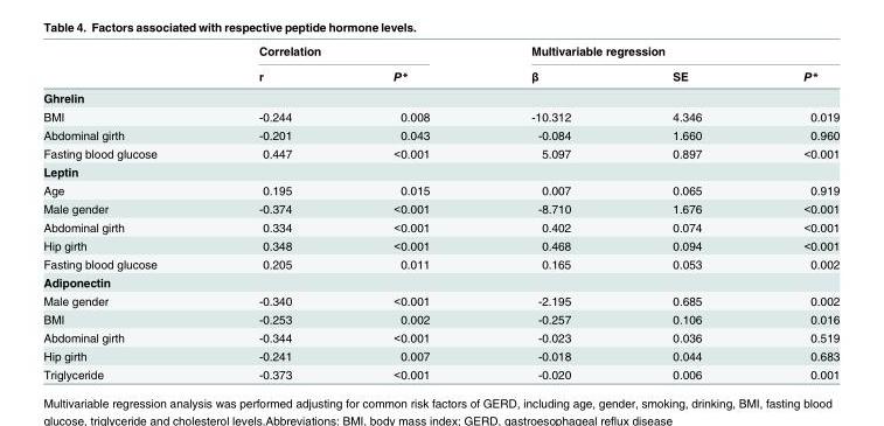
<table><thead><tr><td rowspan="2"></td><td colspan="2">Correlation</td><td colspan="3">Multivariable regression</td></tr><tr><td>r</td><td>P*</td><td>β</td><td>SE</td><td>P*</td></tr></thead><tbody><tr><td colspan="6">Ghrelin</td></tr><tr><td>BMI</td><td>-0.244</td><td>0.008</td><td>-10.312</td><td>4.346</td><td>0.019</td></tr><tr><td>Abdominal girth</td><td>-0.201</td><td>0.043</td><td>-0.084</td><td>1.660</td><td>0.960</td></tr><tr><td>Fasting blood glucose</td><td>0.447</td><td>&lt;0.001</td><td>5.097</td><td>0.897</td><td>&lt;0.001</td></tr><tr><td colspan="6">Leptin</td></tr><tr><td>Age</td><td>0.195</td><td>0.015</td><td>0.007</td><td>0.065</td><td>0.919</td></tr><tr><td>Male gender</td><td>-0.374</td><td>&lt;0.001</td><td>-8.710</td><td>1.676</td><td>&lt;0.001</td></tr><tr><td>Abdominal girth</td><td>0.334</td><td>&lt;0.001</td><td>0.402</td><td>0.074</td><td>&lt;0.001</td></tr><tr><td>Hip girth</td><td>0.348</td><td>&lt;0.001</td><td>0.468</td><td>0.094</td><td>&lt;0.001</td></tr><tr><td>Fasting blood glucose</td><td>0.205</td><td>0.011</td><td>0.165</td><td>0.053</td><td>0.002</td></tr><tr><td colspan="6">Adiponectin</td></tr><tr><td>Male gender</td><td>-0.340</td><td>&lt;0.001</td><td>-2.195</td><td>0.685</td><td>0.002</td></tr><tr><td>BMI</td><td>-0.253</td><td>0.002</td><td>-0.257</td><td>0.106</td><td>0.016</td></tr><tr><td>Abdominal girth</td><td>-0.344</td><td>&lt;0.001</td><td>-0.023</td><td>0.036</td><td>0.519</td></tr><tr><td>Hip girth</td><td>-0.241</td><td>0.007</td><td>-0.018</td><td>0.044</td><td>0.683</td></tr><tr><td>Triglyceride</td><td>-0.373</td><td>&lt;0.001</td><td>-0.020</td><td>0.006</td><td>0.001</td></tr></tbody></table>